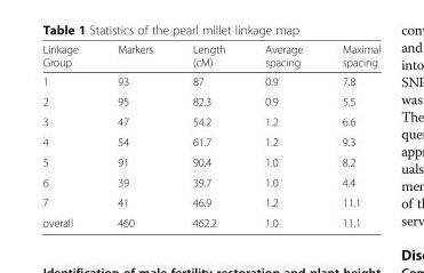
<table><thead><tr><td>Linkage Group</td><td>Markers</td><td>Length (cM)</td><td>Average spacing</td><td>Maximal spacing</td></tr></thead><tbody><tr><td>1</td><td>93</td><td>87</td><td>0.9</td><td>7.8</td></tr><tr><td>2</td><td>95</td><td>82.3</td><td>0.9</td><td>5.5</td></tr><tr><td>3</td><td>47</td><td>54.2</td><td>1.2</td><td>6.6</td></tr><tr><td>4</td><td>54</td><td>61.7</td><td>1.2</td><td>9.3</td></tr><tr><td>5</td><td>91</td><td>90.4</td><td>1.0</td><td>8.2</td></tr><tr><td>6</td><td>39</td><td>39.7</td><td>1.0</td><td>4.4</td></tr><tr><td>7</td><td>41</td><td>46.9</td><td>1.2</td><td>11.1</td></tr><tr><td>overall</td><td>460</td><td>462.2</td><td>1.0</td><td>11.1</td></tr></tbody></table>